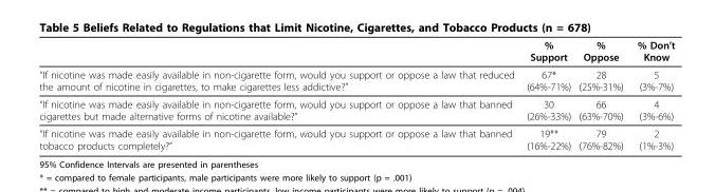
<table><thead><tr><td></td><td>% Support</td><td>% Oppose</td><td>% Don’t Know</td></tr></thead><tbody><tr><td>“If nicotine was made easily available in non-cigarette form, would you support or oppose a law that reduced the amount of nicotine in cigarettes, to make cigarettes less addictive?”</td><td>67* (64%-71%)</td><td>28 (25%-31%)</td><td>5 (3%-7%)</td></tr><tr><td>“If nicotine was made easily available in non-cigarette form, would you support or oppose a law that banned cigarettes but made alternative forms of nicotine available?”</td><td>30 (26%-33%)</td><td>66 (63%-70%)</td><td>4 (3%-6%)</td></tr><tr><td>“If nicotine was made easily available in non-cigarette form, would you support or oppose a law that banned tobacco products completely?”</td><td>19** (16%-22%)</td><td>79 (76%-82%)</td><td>2 (1%-3%)</td></tr></tbody></table>